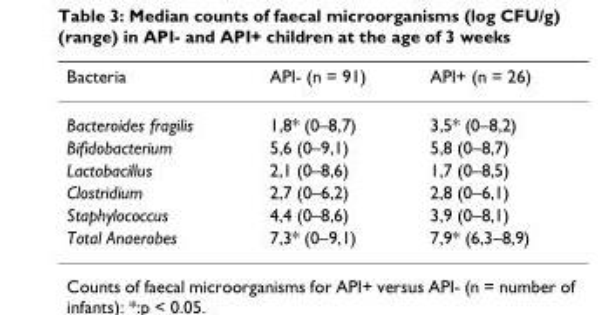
<table><thead><tr><td>Bacteria</td><td>API- (n = 91)</td><td>API+ (n = 26)</td></tr></thead><tbody><tr><td>Bacteroides fragilis</td><td>1,8* (0–8,7)</td><td>3,5* (0–8,2)</td></tr><tr><td>Bifidobacterium</td><td>5,6 (0–9,1)</td><td>5,8 (0–8,7)</td></tr><tr><td>Lactobacillus</td><td>2,1 (0–8,6)</td><td>1,7 (0–8,5)</td></tr><tr><td>Clostridium</td><td>2,7 (0–6,2)</td><td>2,8 (0–6,1)</td></tr><tr><td>Staphylococcus</td><td>4,4 (0–8,6)</td><td>3,9 (0–8,1)</td></tr><tr><td>Total Anaerobes</td><td>7,3* (0–9,1)</td><td>7,9* (6,3–8,9)</td></tr></tbody></table>